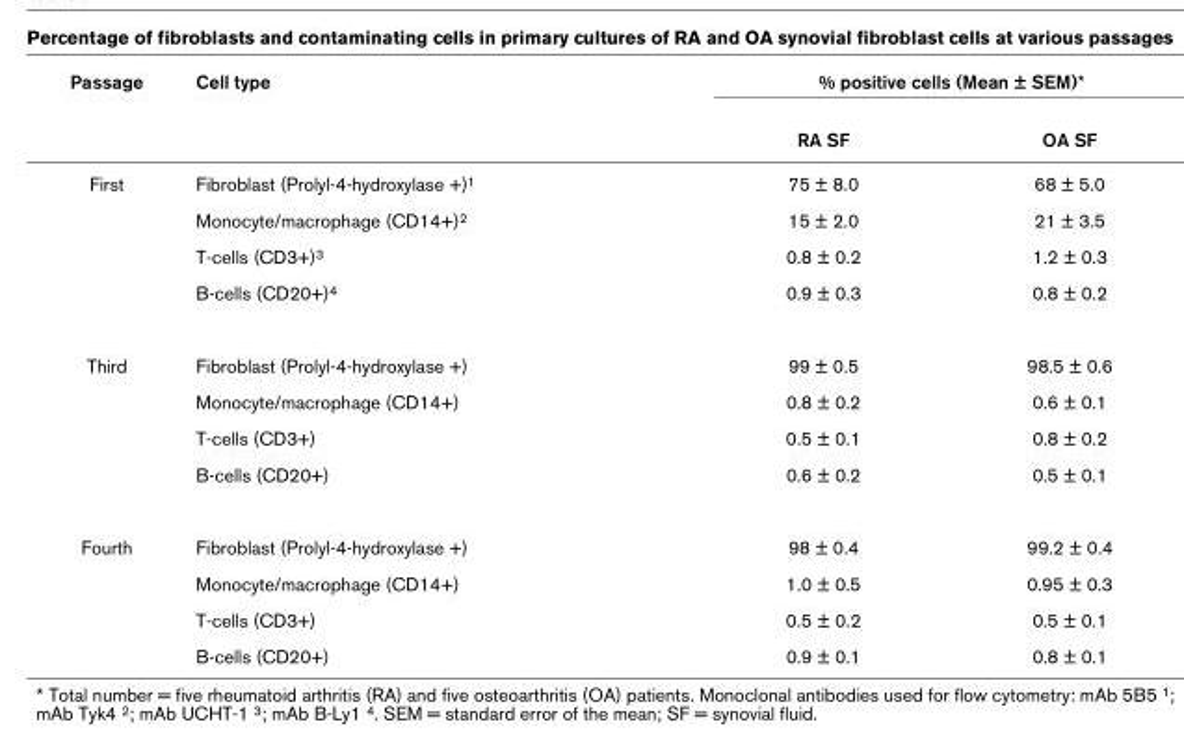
<table><thead><tr><td rowspan="2">Passage</td><td rowspan="2">Cell type</td><td colspan="2">% positive cells (Mean ± SEM)*</td></tr><tr><td>RA SF</td><td>OA SF</td></tr></thead><tbody><tr><td rowspan="4">First</td><td>Fibroblast (Prolyl-4-hydroxylase +)<sup>1</sup></td><td>75 ± 8.0</td><td>68 ± 5.0</td></tr><tr><td>Monocyte/macrophage (CD14+)<sup>2</sup></td><td>15 ± 2.0</td><td>21 ± 3.5</td></tr><tr><td>T-cells (CD3+)<sup>3</sup></td><td>0.8 ± 0.2</td><td>1.2 ± 0.3</td></tr><tr><td>B-cells (CD20+)<sup>4</sup></td><td>0.9 ± 0.3</td><td>0.8 ± 0.2</td></tr><tr><td rowspan="4">Third</td><td>Fibroblast (Prolyl-4-hydroxylase +)</td><td>99 ± 0.5</td><td>98.5 ± 0.6</td></tr><tr><td>Monocyte/macrophage (CD14+)</td><td>0.8 ± 0.2</td><td>0.6 ± 0.1</td></tr><tr><td>T-cells (CD3+)</td><td>0.5 ± 0.1</td><td>0.8 ± 0.2</td></tr><tr><td>B-cells (CD20+)</td><td>0.6 ± 0.2</td><td>0.5 ± 0.1</td></tr><tr><td rowspan="4">Fourth</td><td>Fibroblast (Prolyl-4-hydroxylase +)</td><td>98 ± 0.4</td><td>99.2 ± 0.4</td></tr><tr><td>Monocyte/macrophage (CD14+)</td><td>1.0 ± 0.5</td><td>0.95 ± 0.3</td></tr><tr><td>T-cells (CD3+)</td><td>0.5 ± 0.2</td><td>0.5 ± 0.1</td></tr><tr><td>B-cells (CD20+)</td><td>0.9 ± 0.1</td><td>0.8 ± 0.1</td></tr></tbody></table>